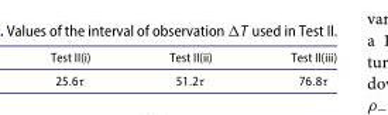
<table><thead><tr><td>Test II(i)</td><td>Test II(ii)</td><td>Test II(iii)</td></tr></thead><tbody></tbody></table>